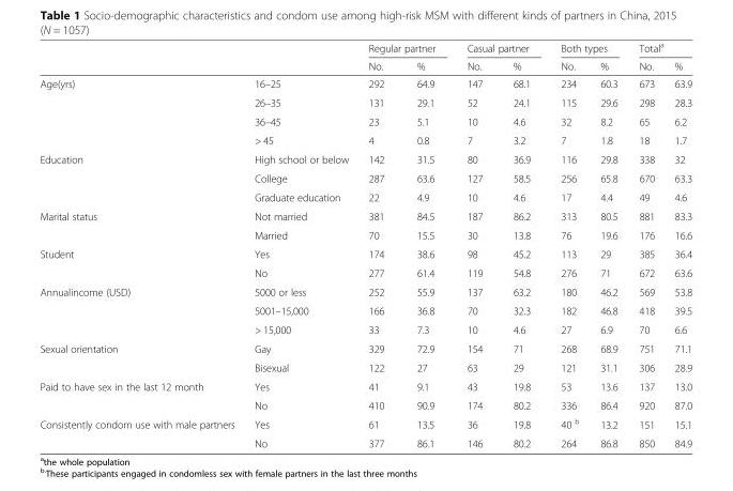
<table><thead><tr><td rowspan="2"></td><td rowspan="2"></td><td colspan="2">Regular partner</td><td colspan="2">Casual partner</td><td colspan="2">Both types</td><td colspan="2">Total<sup>a</sup></td></tr><tr><td>No.</td><td>%</td><td>No.</td><td>%</td><td>No.</td><td>%</td><td>No.</td><td>%</td></tr></thead><tbody><tr><td rowspan="4">Age(yrs)</td><td>16–25</td><td>292</td><td>64.9</td><td>147</td><td>68.1</td><td>234</td><td>60.3</td><td>673</td><td>63.9</td></tr><tr><td>26–35</td><td>131</td><td>29.1</td><td>52</td><td>24.1</td><td>115</td><td>29.6</td><td>298</td><td>28.3</td></tr><tr><td>36–45</td><td>23</td><td>5.1</td><td>10</td><td>4.6</td><td>32</td><td>8.2</td><td>65</td><td>6.2</td></tr><tr><td>&gt; 45</td><td>4</td><td>0.8</td><td>7</td><td>3.2</td><td>7</td><td>1.8</td><td>18</td><td>1.7</td></tr><tr><td rowspan="3">Education</td><td>High school or below</td><td>142</td><td>31.5</td><td>80</td><td>36.9</td><td>116</td><td>29.8</td><td>338</td><td>32</td></tr><tr><td>College</td><td>287</td><td>63.6</td><td>127</td><td>58.5</td><td>256</td><td>65.8</td><td>670</td><td>63.3</td></tr><tr><td>Graduate education</td><td>22</td><td>4.9</td><td>10</td><td>4.6</td><td>17</td><td>4.4</td><td>49</td><td>4.6</td></tr><tr><td rowspan="2">Marital status</td><td>Not married</td><td>381</td><td>84.5</td><td>187</td><td>86.2</td><td>313</td><td>80.5</td><td>881</td><td>83.3</td></tr><tr><td>Married</td><td>70</td><td>15.5</td><td>30</td><td>13.8</td><td>76</td><td>19.6</td><td>176</td><td>16.6</td></tr><tr><td rowspan="2">Student</td><td>Yes</td><td>174</td><td>38.6</td><td>98</td><td>45.2</td><td>113</td><td>29</td><td>385</td><td>36.4</td></tr><tr><td>No</td><td>277</td><td>61.4</td><td>119</td><td>54.8</td><td>276</td><td>71</td><td>672</td><td>63.6</td></tr><tr><td rowspan="3">Annualincome (USD)</td><td>5000 or less</td><td>252</td><td>55.9</td><td>137</td><td>63.2</td><td>180</td><td>46.2</td><td>569</td><td>53.8</td></tr><tr><td>5001–15,000</td><td>166</td><td>36.8</td><td>70</td><td>32.3</td><td>182</td><td>46.8</td><td>418</td><td>39.5</td></tr><tr><td>&gt; 15,000</td><td>33</td><td>7.3</td><td>10</td><td>4.6</td><td>27</td><td>6.9</td><td>70</td><td>6.6</td></tr><tr><td rowspan="2">Sexual orientation</td><td>Gay</td><td>329</td><td>72.9</td><td>154</td><td>71</td><td>268</td><td>68.9</td><td>751</td><td>71.1</td></tr><tr><td>Bisexual</td><td>122</td><td>27</td><td>63</td><td>29</td><td>121</td><td>31.1</td><td>306</td><td>28.9</td></tr><tr><td rowspan="2">Paid to have sex in the last 12 month</td><td>Yes</td><td>41</td><td>9.1</td><td>43</td><td>19.8</td><td>53</td><td>13.6</td><td>137</td><td>13.0</td></tr><tr><td>No</td><td>410</td><td>90.9</td><td>174</td><td>80.2</td><td>336</td><td>86.4</td><td>920</td><td>87.0</td></tr><tr><td rowspan="2">Consistently condom use with male partners</td><td>Yes</td><td>61</td><td>13.5</td><td>36</td><td>19.8</td><td>40 <sup>b</sup></td><td>13.2</td><td>151</td><td>15.1</td></tr><tr><td>No</td><td>377</td><td>86.1</td><td>146</td><td>80.2</td><td>264</td><td>86.8</td><td>850</td><td>84.9</td></tr></tbody></table>